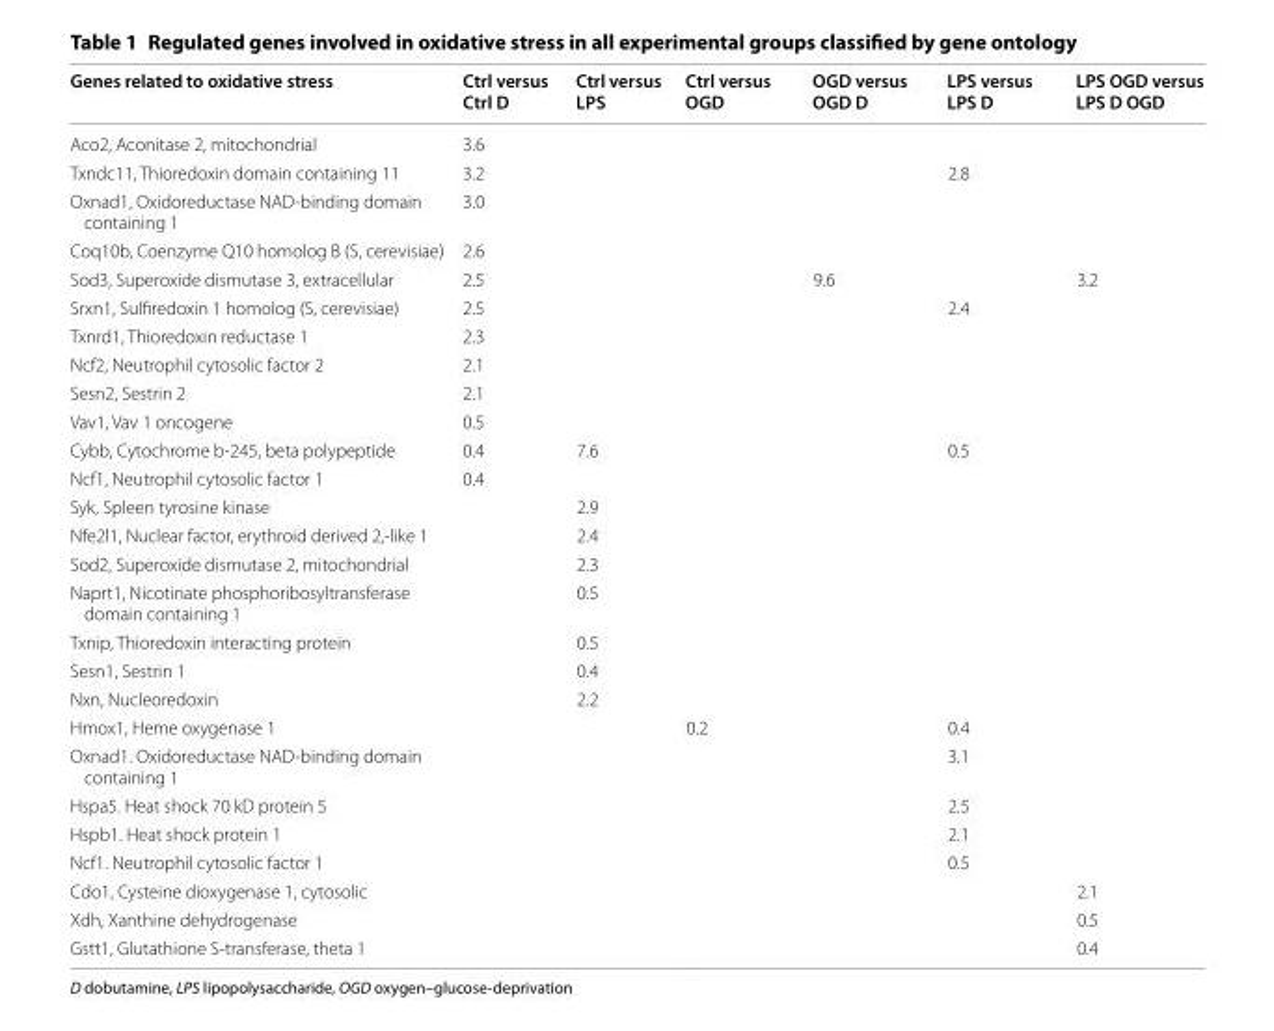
<table><thead><tr><td>Genes related to oxidative stress</td><td>Ctrl versus Ctrl D</td><td>Ctrl versus LPS</td><td>Ctrl versus OGD</td><td>OGD versus OGD D</td><td>LPS versus LPS D</td><td>LPS OGD versus LPS D OGD</td></tr></thead><tbody><tr><td>Aco2, Aconitase 2, mitochondrial</td><td>3.6</td><td></td><td></td><td></td><td></td><td></td></tr><tr><td>Txndc11, Thioredoxin domain containing 11</td><td>3.2</td><td></td><td></td><td></td><td>2.8</td><td></td></tr><tr><td>Oxnad1, Oxidoreductase NAD-binding domain containing 1</td><td>3.0</td><td></td><td></td><td></td><td></td><td></td></tr><tr><td>Coq10b, Coenzyme Q10 homolog B (S, cerevisiae)</td><td>2.6</td><td></td><td></td><td></td><td></td><td></td></tr><tr><td>Sod3, Superoxide dismutase 3, extracellular</td><td>2.5</td><td></td><td></td><td>9.6</td><td></td><td>3.2</td></tr><tr><td>Srxn1, Sulfiredoxin 1 homolog (S, cerevisiae)</td><td>2.5</td><td></td><td></td><td></td><td>2.4</td><td></td></tr><tr><td>Txnrd1, Thioredoxin reductase 1</td><td>2.3</td><td></td><td></td><td></td><td></td><td></td></tr><tr><td>Ncf2, Neutrophil cytosolic factor 2</td><td>2.1</td><td></td><td></td><td></td><td></td><td></td></tr><tr><td>Sesn2, Sestrin 2</td><td>2.1</td><td></td><td></td><td></td><td></td><td></td></tr><tr><td>Vav1, Vav 1 oncogene</td><td>0.5</td><td></td><td></td><td></td><td></td><td></td></tr><tr><td>Cybb, Cytochrome b-245, beta polypeptide</td><td>0.4</td><td>7.6</td><td></td><td></td><td>0.5</td><td></td></tr><tr><td>Ncf1, Neutrophil cytosolic factor 1</td><td>0.4</td><td></td><td></td><td></td><td></td><td></td></tr><tr><td>Syk, Spleen tyrosine kinase</td><td></td><td>2.9</td><td></td><td></td><td></td><td></td></tr><tr><td>Nfe2l1, Nuclear factor, erythroid derived 2,-like 1</td><td></td><td>2.4</td><td></td><td></td><td></td><td></td></tr><tr><td>Sod2, Superoxide dismutase 2, mitochondrial</td><td></td><td>2.3</td><td></td><td></td><td></td><td></td></tr><tr><td>Naprt1, Nicotinate phosphoribosyltransferase domain containing 1</td><td></td><td>0.5</td><td></td><td></td><td></td><td></td></tr><tr><td>Txnip, Thioredoxin interacting protein</td><td></td><td>0.5</td><td></td><td></td><td></td><td></td></tr><tr><td>Sesn1, Sestrin 1</td><td></td><td>0.4</td><td></td><td></td><td></td><td></td></tr><tr><td>Nxn, Nucleoredoxin</td><td></td><td>2.2</td><td></td><td></td><td></td><td></td></tr><tr><td>Hmox1, Heme oxygenase 1</td><td></td><td></td><td>0.2</td><td></td><td>0.4</td><td></td></tr><tr><td>Oxnad1. Oxidoreductase NAD-binding domain containing 1</td><td></td><td></td><td></td><td></td><td>3.1</td><td></td></tr><tr><td>Hspa5. Heat shock 70 kD protein 5</td><td></td><td></td><td></td><td></td><td>2.5</td><td></td></tr><tr><td>Hspb1. Heat shock protein 1</td><td></td><td></td><td></td><td></td><td>2.1</td><td></td></tr><tr><td>Ncf1. Neutrophil cytosolic factor 1</td><td></td><td></td><td></td><td></td><td>0.5</td><td></td></tr><tr><td>Cdo1, Cysteine dioxygenase 1, cytosolic</td><td></td><td></td><td></td><td></td><td></td><td>2.1</td></tr><tr><td>Xdh, Xanthine dehydrogenase</td><td></td><td></td><td></td><td></td><td></td><td>0.5</td></tr><tr><td>Gstt1, Glutathione S-transferase, theta 1</td><td></td><td></td><td></td><td></td><td></td><td>0.4</td></tr></tbody></table>